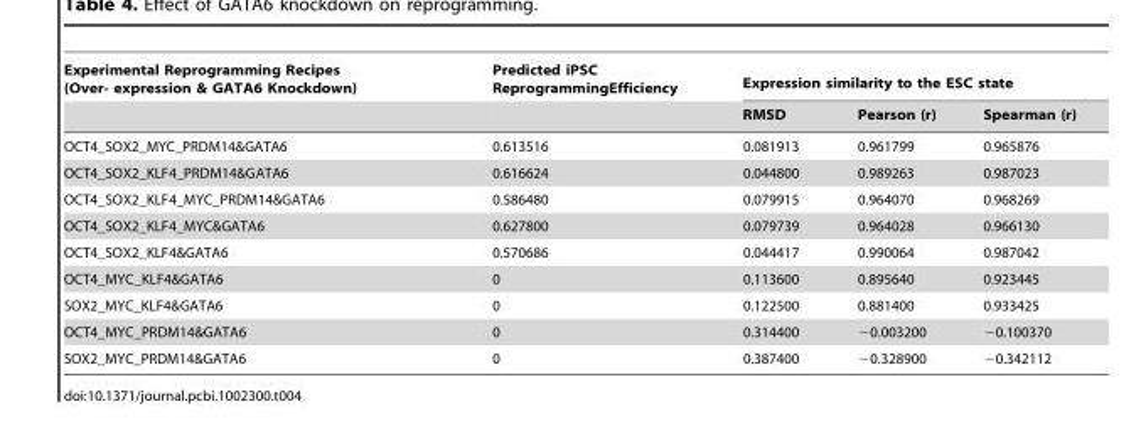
<table><thead><tr><td rowspan="2">Experimental Reprogramming Recipes (Over- expression &amp; GATA6 Knockdown)</td><td rowspan="2">Predicted iPSC ReprogrammingEfficiency</td><td colspan="3">Expression similarity to the ESC state</td></tr><tr><td>RMSD</td><td>Pearson (r)</td><td>Spearman (r)</td></tr></thead><tbody><tr><td>OCT4_SOX2_MYC_PRDM14&amp;GATA6</td><td>0.613516</td><td>0.081913</td><td>0.961799</td><td>0.965876</td></tr><tr><td>OCT4_SOX2_KLF4_PRDM14&amp;GATA6</td><td>0.616624</td><td>0.044800</td><td>0.989263</td><td>0.987023</td></tr><tr><td>OCT4_SOX2_KLF4_MYC_PRDM14&amp;GATA6</td><td>0.586480</td><td>0.079915</td><td>0.964070</td><td>0.968269</td></tr><tr><td>OCT4_SOX2_KLF4_MYC&amp;GATA6</td><td>0.627800</td><td>0.079739</td><td>0.964028</td><td>0.966130</td></tr><tr><td>OCT4_SOX2_KLF4&amp;GATA6</td><td>0.570686</td><td>0.044417</td><td>0.990064</td><td>0.987042</td></tr><tr><td>OCT4_MYC_KLF4&amp;GATA6</td><td>0</td><td>0.113600</td><td>0.895640</td><td>0.923445</td></tr><tr><td>SOX2_MYC_KLF4&amp;GATA6</td><td>0</td><td>0.122500</td><td>0.881400</td><td>0.933425</td></tr><tr><td>OCT4_MYC_PRDM14&amp;GATA6</td><td>0</td><td>0.314400</td><td>−0.003200</td><td>−0.100370</td></tr><tr><td>SOX2_MYC_PRDM14&amp;GATA6</td><td>0</td><td>0.387400</td><td>−0.328900</td><td>−0.342112</td></tr></tbody></table>